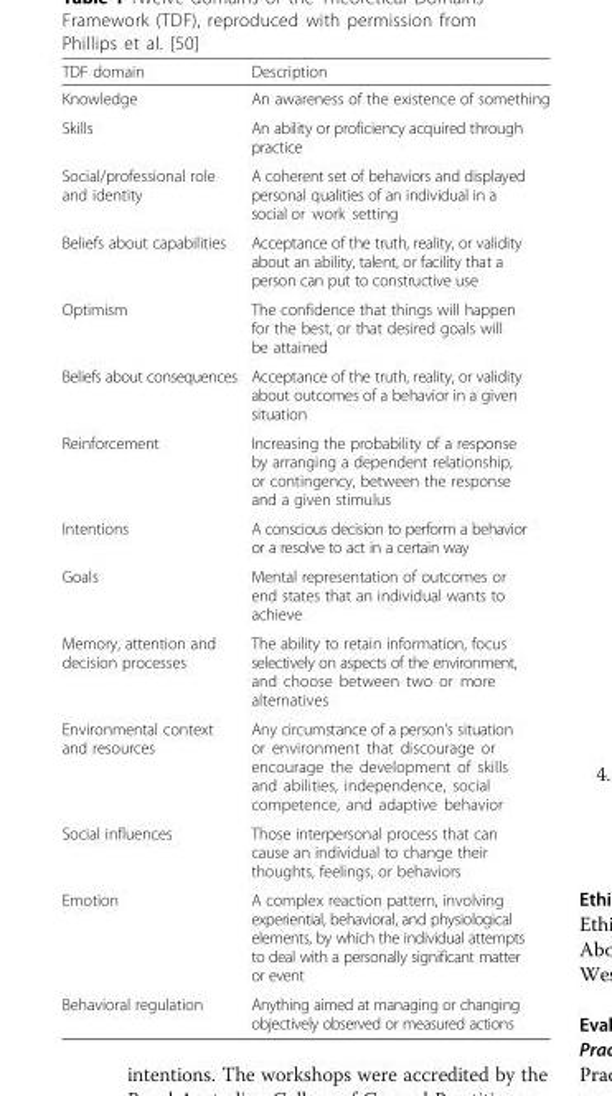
<table><thead><tr><td>TDF domain</td><td>Description</td></tr></thead><tbody><tr><td>Knowledge</td><td>An awareness of the existence of something</td></tr><tr><td>Skills</td><td>An ability or proficiency acquired through practice</td></tr><tr><td>Social/professional role and identity</td><td>A coherent set of behaviors and displayed personal qualities of an individual in a social or work setting</td></tr><tr><td>Beliefs about capabilities</td><td>Acceptance of the truth, reality, or validity about an ability, talent, or facility that a person can put to constructive use</td></tr><tr><td>Optimism</td><td>The confidence that things will happen for the best, or that desired goals will be attained</td></tr><tr><td>Beliefs about consequences</td><td>Acceptance of the truth, reality, or validity about outcomes of a behavior in a given situation</td></tr><tr><td>Reinforcement</td><td>Increasing the probability of a response by arranging a dependent relationship, or contingency, between the response and a given stimulus</td></tr><tr><td>Intentions</td><td>A conscious decision to perform a behavior or a resolve to act in a certain way</td></tr><tr><td>Goals</td><td>Mental representation of outcomes or end states that an individual wants to achieve</td></tr><tr><td>Memory, attention and decision processes</td><td>The ability to retain information, focus selectively on aspects of the environment, and choose between two or more alternatives</td></tr><tr><td>Environmental context and resources</td><td>Any circumstance of a person’s situation or environment that discourage or encourage the development of skills and abilities, independence, social competence, and adaptive behavior</td></tr><tr><td>Social influences</td><td>Those interpersonal process that can cause an individual to change their thoughts, feelings, or behaviors</td></tr><tr><td>Emotion</td><td>A complex reaction pattern, involving experiential, behavioral, and physiological elements, by which the individual attempts to deal with a personally significant matter or event</td></tr><tr><td>Behavioral regulation</td><td>Anything aimed at managing or changing objectively observed or measured actions</td></tr></tbody></table>